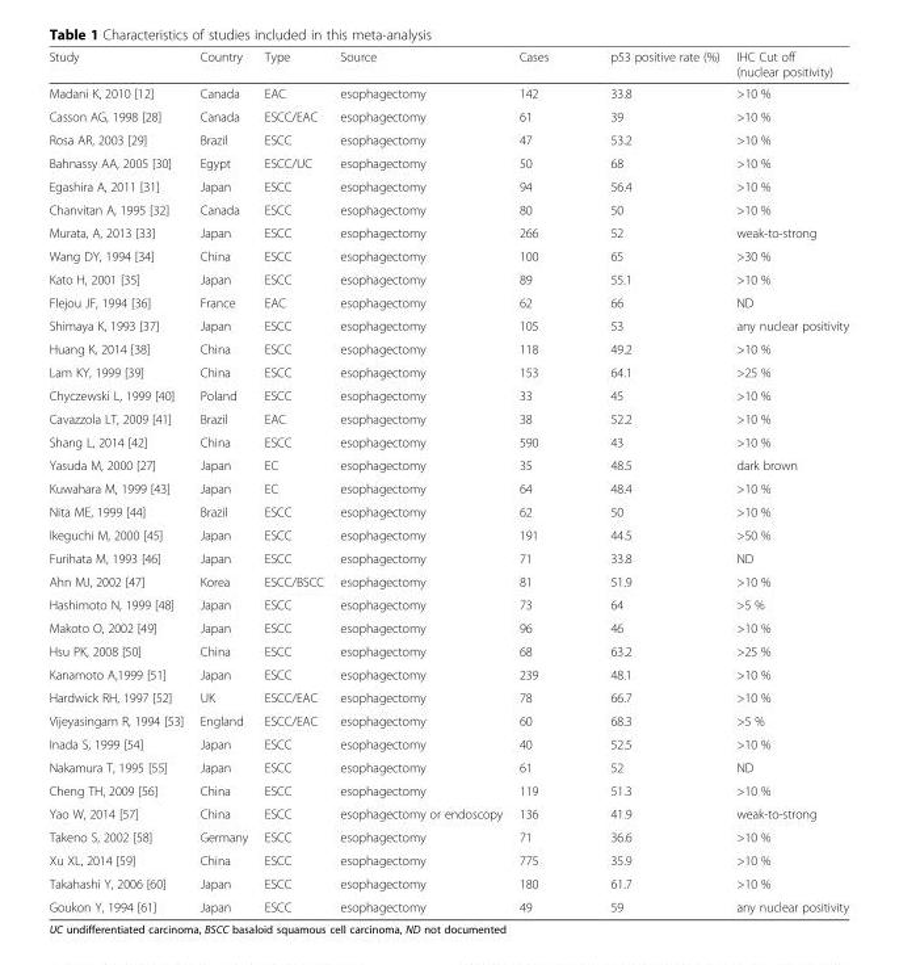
<table><thead><tr><td>Study</td><td>Country</td><td>Type</td><td>Source</td><td>Cases</td><td>p53 positive rate (%)</td><td>IHC Cut off (nuclear positivity)</td></tr></thead><tbody><tr><td>Madani K, 2010 [12]</td><td>Canada</td><td>EAC</td><td>esophagectomy</td><td>142</td><td>33.8</td><td>&gt;10 %</td></tr><tr><td>Casson AG, 1998 [28]</td><td>Canada</td><td>ESCC/EAC</td><td>esophagectomy</td><td>61</td><td>39</td><td>&gt;10 %</td></tr><tr><td>Rosa AR, 2003 [29]</td><td>Brazil</td><td>ESCC</td><td>esophagectomy</td><td>47</td><td>53.2</td><td>&gt;10 %</td></tr><tr><td>Bahnassy AA, 2005 [30]</td><td>Egypt</td><td>ESCC/UC</td><td>esophagectomy</td><td>50</td><td>68</td><td>&gt;10 %</td></tr><tr><td>Egashira A, 2011 [31]</td><td>Japan</td><td>ESCC</td><td>esophagectomy</td><td>94</td><td>56.4</td><td>&gt;10 %</td></tr><tr><td>Chanvitan A, 1995 [32]</td><td>Canada</td><td>ESCC</td><td>esophagectomy</td><td>80</td><td>50</td><td>&gt;10 %</td></tr><tr><td>Murata, A, 2013 [33]</td><td>Japan</td><td>ESCC</td><td>esophagectomy</td><td>266</td><td>52</td><td>weak-to-strong</td></tr><tr><td>Wang DY, 1994 [34]</td><td>China</td><td>ESCC</td><td>esophagectomy</td><td>100</td><td>65</td><td>&gt;30 %</td></tr><tr><td>Kato H, 2001 [35]</td><td>Japan</td><td>ESCC</td><td>esophagectomy</td><td>89</td><td>55.1</td><td>&gt;10 %</td></tr><tr><td>Flejou JF, 1994 [36]</td><td>France</td><td>EAC</td><td>esophagectomy</td><td>62</td><td>66</td><td>ND</td></tr><tr><td>Shimaya K, 1993 [37]</td><td>Japan</td><td>ESCC</td><td>esophagectomy</td><td>105</td><td>53</td><td>any nuclear positivity</td></tr><tr><td>Huang K, 2014 [38]</td><td>China</td><td>ESCC</td><td>esophagectomy</td><td>118</td><td>49.2</td><td>&gt;10 %</td></tr><tr><td>Lam KY, 1999 [39]</td><td>China</td><td>ESCC</td><td>esophagectomy</td><td>153</td><td>64.1</td><td>&gt;25 %</td></tr><tr><td>Chyczewski L, 1999 [40]</td><td>Poland</td><td>ESCC</td><td>esophagectomy</td><td>33</td><td>45</td><td>&gt;10 %</td></tr><tr><td>Cavazzola LT, 2009 [41]</td><td>Brazil</td><td>EAC</td><td>esophagectomy</td><td>38</td><td>52.2</td><td>&gt;10 %</td></tr><tr><td>Shang L, 2014 [42]</td><td>China</td><td>ESCC</td><td>esophagectomy</td><td>590</td><td>43</td><td>&gt;10 %</td></tr><tr><td>Yasuda M, 2000 [27]</td><td>Japan</td><td>EC</td><td>esophagectomy</td><td>35</td><td>48.5</td><td>dark brown</td></tr><tr><td>Kuwahara M, 1999 [43]</td><td>Japan</td><td>EC</td><td>esophagectomy</td><td>64</td><td>48.4</td><td>&gt;10 %</td></tr><tr><td>Nita ME, 1999 [44]</td><td>Brazil</td><td>ESCC</td><td>esophagectomy</td><td>62</td><td>50</td><td>&gt;10 %</td></tr><tr><td>Ikeguchi M, 2000 [45]</td><td>Japan</td><td>ESCC</td><td>esophagectomy</td><td>191</td><td>44.5</td><td>&gt;50 %</td></tr><tr><td>Furihata M, 1993 [46]</td><td>Japan</td><td>ESCC</td><td>esophagectomy</td><td>71</td><td>33.8</td><td>ND</td></tr><tr><td>Ahn MJ, 2002 [47]</td><td>Korea</td><td>ESCC/BSCC</td><td>esophagectomy</td><td>81</td><td>51.9</td><td>&gt;10 %</td></tr><tr><td>Hashimoto N, 1999 [48]</td><td>Japan</td><td>ESCC</td><td>esophagectomy</td><td>73</td><td>64</td><td>&gt;5 %</td></tr><tr><td>Makoto O, 2002 [49]</td><td>Japan</td><td>ESCC</td><td>esophagectomy</td><td>96</td><td>46</td><td>&gt;10 %</td></tr><tr><td>Hsu PK, 2008 [50]</td><td>China</td><td>ESCC</td><td>esophagectomy</td><td>68</td><td>63.2</td><td>&gt;25 %</td></tr><tr><td>Kanamoto A,1999 [51]</td><td>Japan</td><td>ESCC</td><td>esophagectomy</td><td>239</td><td>48.1</td><td>&gt;10 %</td></tr><tr><td>Hardwick RH, 1997 [52]</td><td>UK</td><td>ESCC/EAC</td><td>esophagectomy</td><td>78</td><td>66.7</td><td>&gt;10 %</td></tr><tr><td>Vijeyasingam R, 1994 [53]</td><td>England</td><td>ESCC/EAC</td><td>esophagectomy</td><td>60</td><td>68.3</td><td>&gt;5 %</td></tr><tr><td>Inada S, 1999 [54]</td><td>Japan</td><td>ESCC</td><td>esophagectomy</td><td>40</td><td>52.5</td><td>&gt;10 %</td></tr><tr><td>Nakamura T, 1995 [55]</td><td>Japan</td><td>ESCC</td><td>esophagectomy</td><td>61</td><td>52</td><td>ND</td></tr><tr><td>Cheng TH, 2009 [56]</td><td>China</td><td>ESCC</td><td>esophagectomy</td><td>119</td><td>51.3</td><td>&gt;10 %</td></tr><tr><td>Yao W, 2014 [57]</td><td>China</td><td>ESCC</td><td>esophagectomy or endoscopy</td><td>136</td><td>41.9</td><td>weak-to-strong</td></tr><tr><td>Takeno S, 2002 [58]</td><td>Germany</td><td>ESCC</td><td>esophagectomy</td><td>71</td><td>36.6</td><td>&gt;10 %</td></tr><tr><td>Xu XL, 2014 [59]</td><td>China</td><td>ESCC</td><td>esophagectomy</td><td>775</td><td>35.9</td><td>&gt;10 %</td></tr><tr><td>Takahashi Y, 2006 [60]</td><td>Japan</td><td>ESCC</td><td>esophagectomy</td><td>180</td><td>61.7</td><td>&gt;10 %</td></tr><tr><td>Goukon Y, 1994 [61]</td><td>Japan</td><td>ESCC</td><td>esophagectomy</td><td>49</td><td>59</td><td>any nuclear positivity</td></tr></tbody></table>